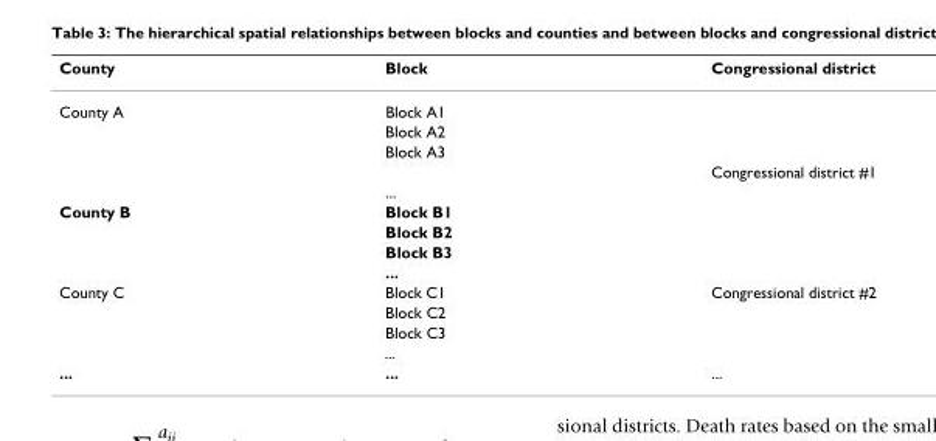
<table><thead><tr><td>County</td><td>Block</td><td>Congressional district</td></tr></thead><tbody><tr><td rowspan="5">County A</td><td>Block A1</td><td></td></tr><tr><td>Block A2</td><td></td></tr><tr><td>Block A3</td><td></td></tr><tr><td></td><td>Congressional district #1</td></tr><tr><td>...</td><td></td></tr><tr><td rowspan="4">County B</td><td>Block B1</td><td></td></tr><tr><td>Block B2</td><td></td></tr><tr><td>Block B3</td><td></td></tr><tr><td>...</td><td></td></tr><tr><td rowspan="4">County C</td><td>Block C1</td><td>Congressional district #2</td></tr><tr><td>Block C2</td><td></td></tr><tr><td>Block C3</td><td></td></tr><tr><td>...</td><td></td></tr><tr><td>...</td><td>...</td><td>...</td></tr></tbody></table>